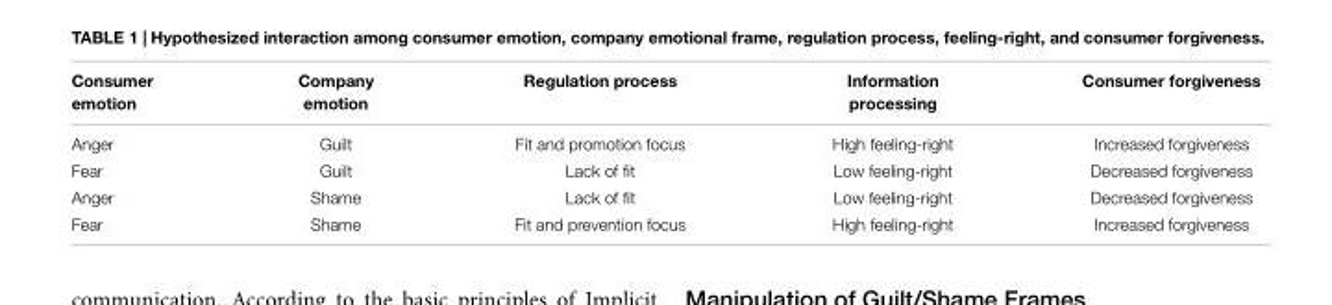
<table><thead><tr><td>Consumer emotion</td><td>Company emotion</td><td>Regulation process</td><td>Information processing</td><td>Consumer forgiveness</td></tr></thead><tbody><tr><td>Anger</td><td>Guilt</td><td>Fit and promotion focus</td><td>High feeling-right</td><td>Increased forgiveness</td></tr><tr><td>Fear</td><td>Guilt</td><td>Lack of fit</td><td>Low feeling-right</td><td>Decreased forgiveness</td></tr><tr><td>Anger</td><td>Shame</td><td>Lack of fit</td><td>Low feeling-right</td><td>Decreased forgiveness</td></tr><tr><td>Fear</td><td>Shame</td><td>Fit and prevention focus</td><td>High feeling-right</td><td>Increased forgiveness</td></tr></tbody></table>